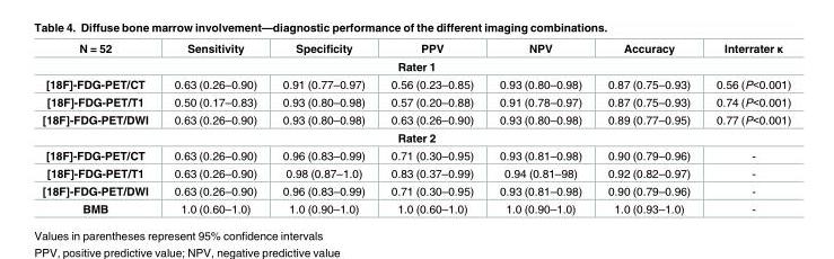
<table><thead><tr><td>N = 52</td><td>Sensitivity</td><td>Specificity</td><td>PPV</td><td>NPV</td><td>Accuracy</td><td>Interrater κ</td></tr></thead><tbody><tr><td colspan="7">Rater 1</td></tr><tr><td>[18F]-FDG-PET/CT</td><td>0.63 (0.26–0.90)</td><td>0.91 (0.77–0.97)</td><td>0.56 (0.23–0.85)</td><td>0.93 (0.80–0.98)</td><td>0.87 (0.75–0.93)</td><td>0.56 (P&lt;0.001)</td></tr><tr><td>[18F]-FDG-PET/T1</td><td>0.50 (0.17–0.83)</td><td>0.93 (0.80–0.98)</td><td>0.57 (0.20–0.88)</td><td>0.91 (0.78–0.97)</td><td>0.87 (0.75–0.93)</td><td>0.74 (P&lt;0.001)</td></tr><tr><td>[18F]-FDG-PET/DWI</td><td>0.63 (0.26–0.90)</td><td>0.93 (0.80–0.98)</td><td>0.63 (0.26–0.90)</td><td>0.93 (0.80–0.98)</td><td>0.89 (0.77–0.95)</td><td>0.77 (P&lt;0.001)</td></tr><tr><td colspan="7">Rater 2</td></tr><tr><td>[18F]-FDG-PET/CT</td><td>0.63 (0.26–0.90)</td><td>0.96 (0.83–0.99)</td><td>0.71 (0.30–0.95)</td><td>0.93 (0.81–0.98)</td><td>0.90 (0.79–0.96)</td><td>-</td></tr><tr><td>[18F]-FDG-PET/T1</td><td>0.63 (0.26–0.90)</td><td>0.98 (0.87–1.0)</td><td>0.83 (0.37–0.99)</td><td>0.94 (0.81–98)</td><td>0.92 (0.82–0.97)</td><td>-</td></tr><tr><td>[18F]-FDG-PET/DWI</td><td>0.63 (0.26–0.90)</td><td>0.96 (0.83–0.99)</td><td>0.71 (0.30–0.95)</td><td>0.93 (0.81–0.98)</td><td>0.90 (0.79–0.96)</td><td>-</td></tr><tr><td>BMB</td><td>1.0 (0.60–1.0)</td><td>1.0 (0.90–1.0)</td><td>1.0 (0.60–1.0)</td><td>1.0 (0.90–1.0)</td><td>1.0 (0.93–1.0)</td><td>-</td></tr></tbody></table>